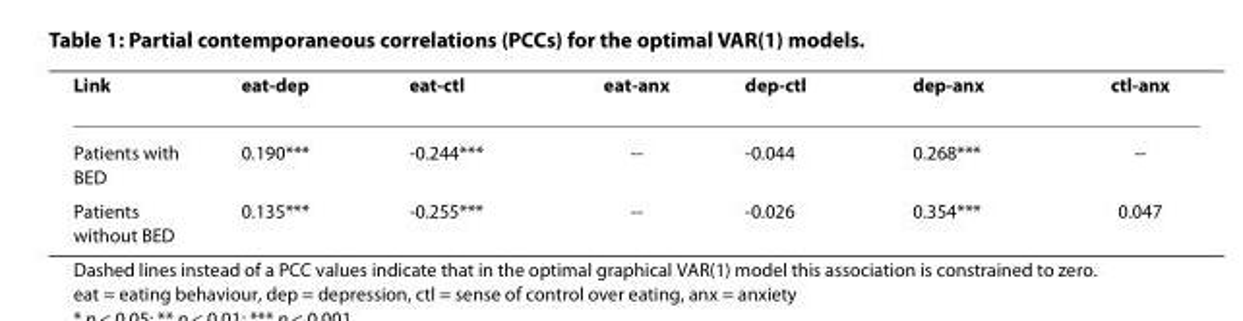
<table><thead><tr><td>Link</td><td>eat-dep</td><td>eat-ctl</td><td>eat-anx</td><td>dep-ctl</td><td>dep-anx</td><td>ctl-anx</td></tr></thead><tbody><tr><td>Patients with BED</td><td>0.190***</td><td>-0.244***</td><td>--</td><td>-0.044</td><td>0.268***</td><td>--</td></tr><tr><td>Patients without BED</td><td>0.135***</td><td>-0.255***</td><td>--</td><td>-0.026</td><td>0.354***</td><td>0.047</td></tr></tbody></table>